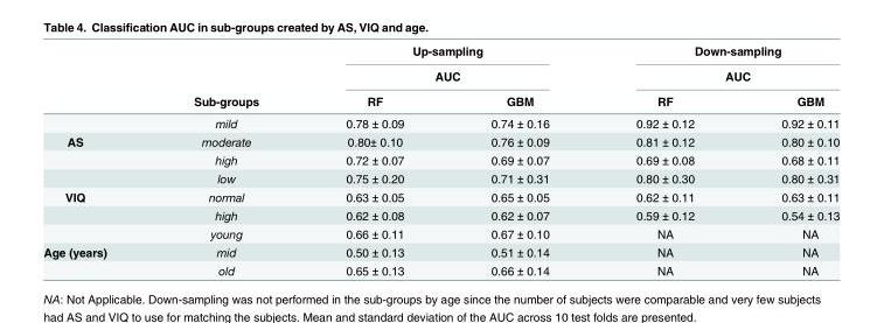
<table><thead><tr><td rowspan="3"></td><td rowspan="3">Sub-groups</td><td rowspan="2" colspan="2">Up-sampling AUC</td><td rowspan="2" colspan="2">Down-sampling AUC</td></tr><tr></tr><tr><td>RF</td><td>GBM</td><td>RF</td><td>GBM</td></tr></thead><tbody><tr><td></td><td>mild</td><td>0.78 ± 0.09</td><td>0.74 ± 0.16</td><td>0.92 ± 0.12</td><td>0.92 ± 0.11</td></tr><tr><td rowspan="3">AS</td><td>moderate</td><td>0.80± 0.10</td><td>0.76 ± 0.09</td><td>0.81 ± 0.12</td><td>0.80 ± 0.10</td></tr><tr><td>high</td><td>0.72 ± 0.07</td><td>0.69 ± 0.07</td><td>0.69 ± 0.08</td><td>0.68 ± 0.11</td></tr><tr><td>low</td><td>0.75 ± 0.20</td><td>0.71 ± 0.31</td><td>0.80 ± 0.30</td><td>0.80 ± 0.31</td></tr><tr><td rowspan="3">VIQ</td><td>normal</td><td>0.63 ± 0.05</td><td>0.65 ± 0.05</td><td>0.62 ± 0.11</td><td>0.63 ± 0.11</td></tr><tr><td>high</td><td>0.62 ± 0.08</td><td>0.62 ± 0.07</td><td>0.59 ± 0.12</td><td>0.54 ± 0.13</td></tr><tr><td>young</td><td>0.66 ± 0.11</td><td>0.67 ± 0.10</td><td>NA</td><td>NA</td></tr><tr><td rowspan="2">Age (years)</td><td>mid</td><td>0.50 ± 0.13</td><td>0.51 ± 0.14</td><td>NA</td><td>NA</td></tr><tr><td>old</td><td>0.65 ± 0.13</td><td>0.66 ± 0.14</td><td>NA</td><td>NA</td></tr></tbody></table>